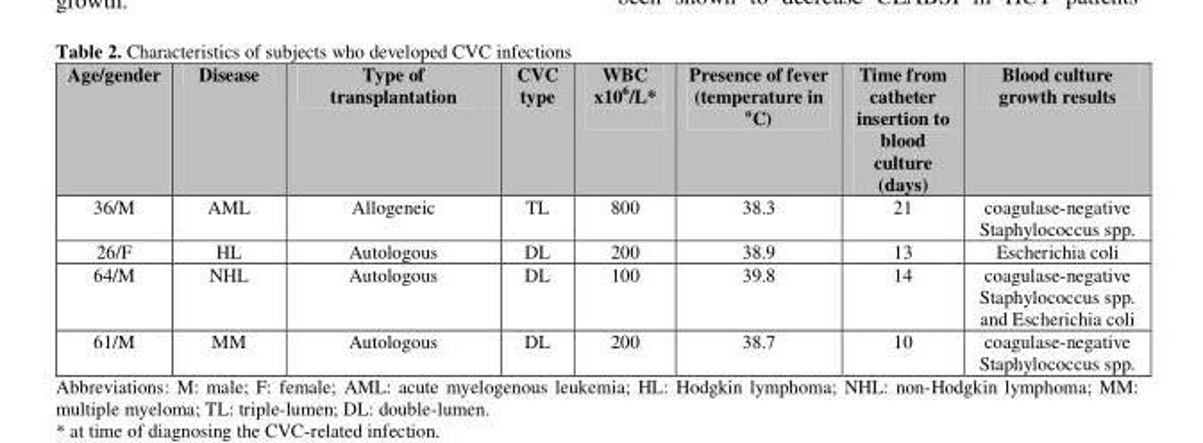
<table><thead><tr><td>Age/gender</td><td>Disease</td><td>Type of transplantation</td><td>CVC type</td><td>WBC x106/L*</td><td>Presence of fever (temperature in °C)</td><td>Time from catheter insertion to blood culture (days)</td><td>Blood culture growth results</td></tr></thead><tbody><tr><td>36/M</td><td>AML</td><td>Allogeneic</td><td>TL</td><td>800</td><td>38.3</td><td>21</td><td>coagulase-negative Staphylococcus spp.</td></tr><tr><td>26/F</td><td>HL</td><td>Autologous</td><td>DL</td><td>200</td><td>38.9</td><td>13</td><td>Escherichia coli</td></tr><tr><td>64/M</td><td>NHL</td><td>Autologous</td><td>DL</td><td>100</td><td>39.8</td><td>14</td><td>coagulase-negative Staphylococcus spp. and Escherichia coli</td></tr><tr><td>61/M</td><td>MM</td><td>Autologous</td><td>DL</td><td>200</td><td>38.7</td><td>10</td><td>coagulase-negative Staphylococcus spp.</td></tr></tbody></table>